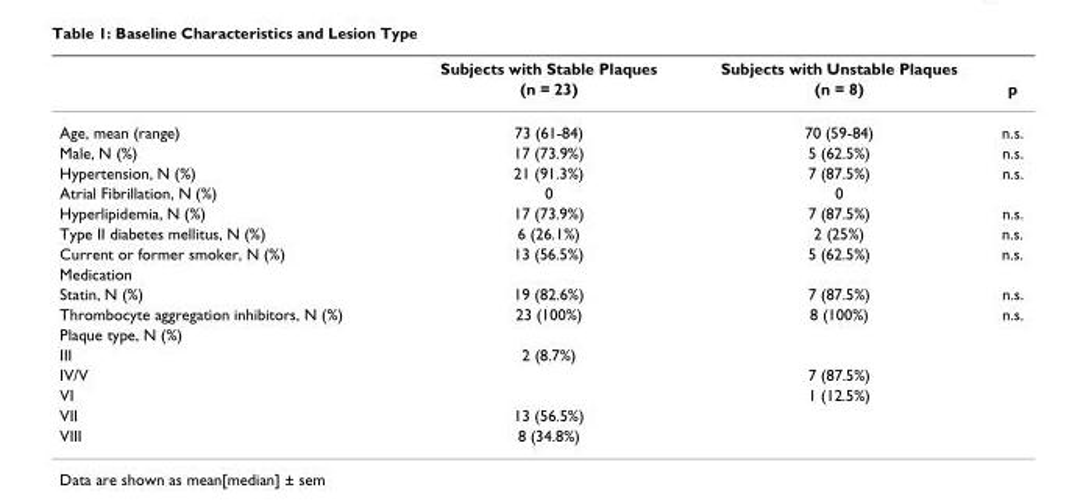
<table><thead><tr><td rowspan="2"></td><td rowspan="2">Subjects with Stable Plaques (n = 23)</td><td rowspan="2">Subjects with Unstable Plaques (n = 8)</td><td rowspan="2">p</td></tr><tr></tr></thead><tbody><tr><td>Age, mean (range)</td><td>73 (61-84)</td><td>70 (59-84)</td><td>n.s.</td></tr><tr><td>Male, N (%)</td><td>17 (73.9%)</td><td>5 (62.5%)</td><td>n.s.</td></tr><tr><td>Hypertension, N (%)</td><td>21 (91.3%)</td><td>7 (87.5%)</td><td>n.s.</td></tr><tr><td>Atrial Fibrillation, N (%)</td><td>0</td><td>0</td><td></td></tr><tr><td>Hyperlipidemia, N (%)</td><td>17 (73.9%)</td><td>7 (87.5%)</td><td>n.s.</td></tr><tr><td>Type II diabetes mellitus, N (%)</td><td>6 (26.1%)</td><td>2 (25%)</td><td>n.s.</td></tr><tr><td>Current or former smoker, N (%)</td><td>13 (56.5%)</td><td>5 (62.5%)</td><td>n.s.</td></tr><tr><td colspan="4">Medication</td></tr><tr><td>Statin, N (%)</td><td>19 (82.6%)</td><td>7 (87.5%)</td><td>n.s.</td></tr><tr><td>Thrombocyte aggregation inhibitors, N (%)</td><td>23 (100%)</td><td>8 (100%)</td><td>n.s.</td></tr><tr><td colspan="4">Plaque type, N (%)</td></tr><tr><td>III</td><td>2 (8.7%)</td><td></td><td></td></tr><tr><td>IV/V</td><td></td><td>7 (87.5%)</td><td></td></tr><tr><td>VI</td><td></td><td>1 (12.5%)</td><td></td></tr><tr><td>VII</td><td>13 (56.5%)</td><td></td><td></td></tr><tr><td>VIII</td><td>8 (34.8%)</td><td></td><td></td></tr></tbody></table>